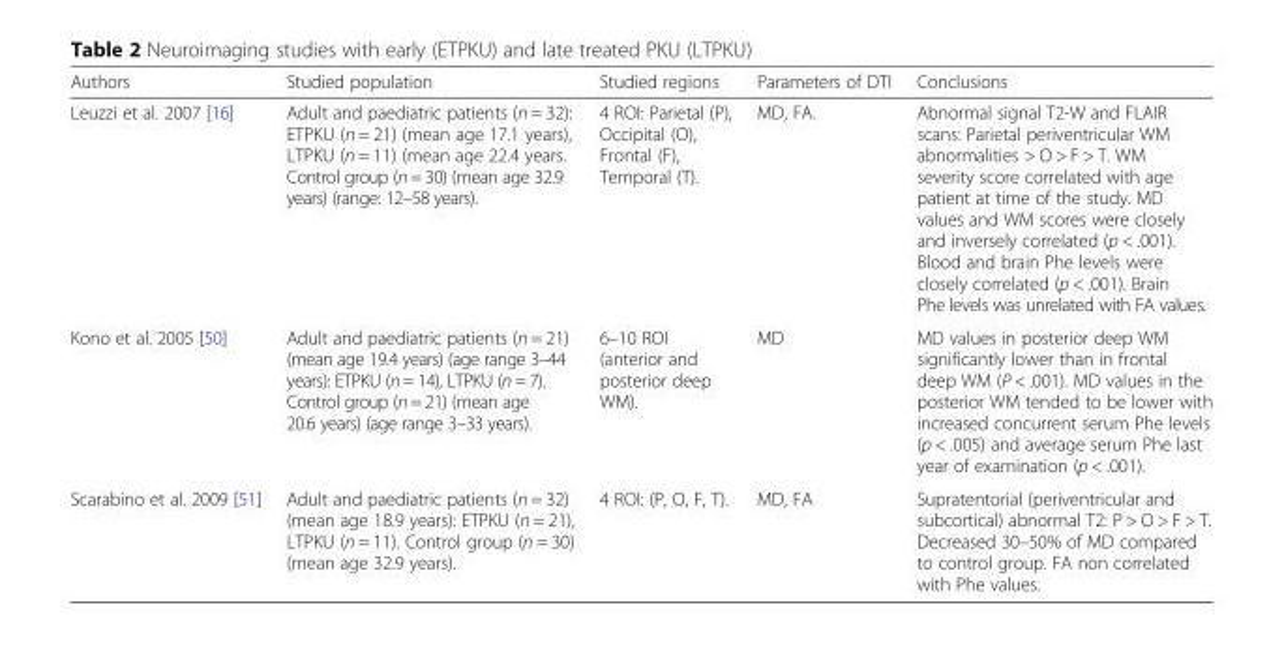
<table><thead><tr><td>Authors</td><td>Studied population</td><td>Studied regions</td><td>Parameters of DTI</td><td>Conclusions</td></tr></thead><tbody><tr><td>Leuzzi et al. 2007 [16]</td><td>Adult and paediatric patients (n = 32): ETPKU (n = 21) (mean age 17.1 years), LTPKU (n = 11) (mean age 22.4 years. Control group (n = 30) (mean age 32.9 years) (range: 12–58 years).</td><td>4 ROI: Parietal (P), Occipital (O), Frontal (F), Temporal (T).</td><td>MD, FA.</td><td>Abnormal signal T2-W and FLAIR scans: Parietal periventricular WM abnormalities &gt; O &gt; F &gt; T. WM severity score correlated with age patient at time of the study. MD values and WM scores were closely and inversely correlated (p &lt; .001). Blood and brain Phe levels were closely correlated (p &lt; .001). Brain Phe levels was unrelated with FA values.</td></tr><tr><td>Kono et al. 2005 [50]</td><td>Adult and paediatric patients (n = 21) (mean age 19.4 years) (age range 3–44 years): ETPKU (n = 14), LTPKU (n = 7). Control group (n = 21) (mean age 20.6 years) (age range 3–33 years).</td><td>6–10 ROI (anterior and posterior deep WM).</td><td>MD</td><td>MD values in posterior deep WM significantly lower than in frontal deep WM (P &lt; .001). MD values in the posterior WM tended to be lower with increased concurrent serum Phe levels (p &lt; .005) and average serum Phe last year of examination (p &lt; .001).</td></tr><tr><td>Scarabino et al. 2009 [51]</td><td>Adult and paediatric patients (n = 32) (mean age 18.9 years): ETPKU (n = 21), LTPKU (n = 11). Control group (n = 30) (mean age 32.9 years).</td><td>4 ROI: (P, O, F, T).</td><td>MD, FA</td><td>Supratentorial (periventricular and subcortical) abnormal T2: P &gt; O &gt; F &gt; T. Decreased 30–50% of MD compared to control group. FA non correlated with Phe values.</td></tr></tbody></table>